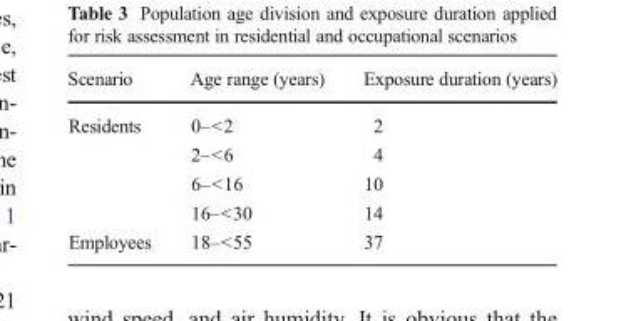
<table><thead><tr><td>Scenario</td><td>Age range (years)</td><td>Exposure duration (years)</td></tr></thead><tbody><tr><td rowspan="4">Residents</td><td>0–&lt;2</td><td>2</td></tr><tr><td>2–&lt;6</td><td>4</td></tr><tr><td>6–&lt;16</td><td>10</td></tr><tr><td>16–&lt;30</td><td>14</td></tr><tr><td>Employees</td><td>18–&lt;55</td><td>37</td></tr></tbody></table>